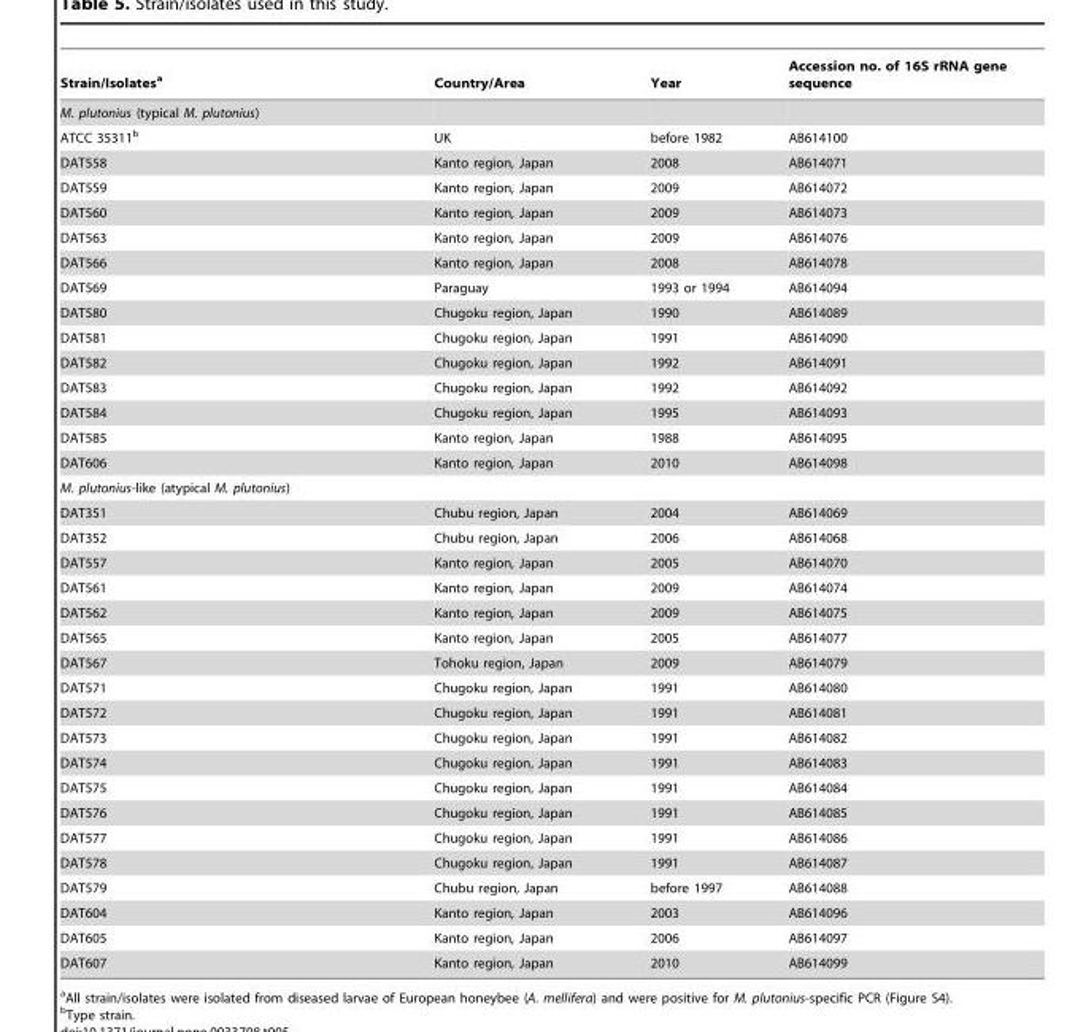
<table><thead><tr><td>Strain/Isolates<sup>a</sup></td><td>Country/Area</td><td>Year</td><td>Accession no. of 16S rRNA gene sequence</td></tr></thead><tbody><tr><td colspan="4">M. plutonius (typical M. plutonius)</td></tr><tr><td>ATCC 35311<sup>b</sup></td><td>UK</td><td>before 1982</td><td>AB614100</td></tr><tr><td>DAT558</td><td>Kanto region, Japan</td><td>2008</td><td>AB614071</td></tr><tr><td>DAT559</td><td>Kanto region, Japan</td><td>2009</td><td>AB614072</td></tr><tr><td>DAT560</td><td>Kanto region, Japan</td><td>2009</td><td>AB614073</td></tr><tr><td>DAT563</td><td>Kanto region, Japan</td><td>2009</td><td>AB614076</td></tr><tr><td>DAT566</td><td>Kanto region, Japan</td><td>2008</td><td>AB614078</td></tr><tr><td>DAT569</td><td>Paraguay</td><td>1993 or 1994</td><td>AB614094</td></tr><tr><td>DAT580</td><td>Chugoku region, Japan</td><td>1990</td><td>AB614089</td></tr><tr><td>DAT581</td><td>Chugoku region, Japan</td><td>1991</td><td>AB614090</td></tr><tr><td>DAT582</td><td>Chugoku region, Japan</td><td>1992</td><td>AB614091</td></tr><tr><td>DAT583</td><td>Chugoku region, Japan</td><td>1992</td><td>AB614092</td></tr><tr><td>DAT584</td><td>Chugoku region, Japan</td><td>1995</td><td>AB614093</td></tr><tr><td>DAT585</td><td>Kanto region, Japan</td><td>1988</td><td>AB614095</td></tr><tr><td>DAT606</td><td>Kanto region, Japan</td><td>2010</td><td>AB614098</td></tr><tr><td colspan="4">M. plutonius-like (atypical M. plutonius)</td></tr><tr><td>DAT351</td><td>Chubu region, Japan</td><td>2004</td><td>AB614069</td></tr><tr><td>DAT352</td><td>Chubu region, Japan</td><td>2006</td><td>AB614068</td></tr><tr><td>DAT557</td><td>Kanto region, Japan</td><td>2005</td><td>AB614070</td></tr><tr><td>DAT561</td><td>Kanto region, Japan</td><td>2009</td><td>AB614074</td></tr><tr><td>DAT562</td><td>Kanto region, Japan</td><td>2009</td><td>AB614075</td></tr><tr><td>DAT565</td><td>Kanto region, Japan</td><td>2005</td><td>AB614077</td></tr><tr><td>DAT567</td><td>Tohoku region, Japan</td><td>2009</td><td>AB614079</td></tr><tr><td>DAT571</td><td>Chugoku region, Japan</td><td>1991</td><td>AB614080</td></tr><tr><td>DAT572</td><td>Chugoku region, Japan</td><td>1991</td><td>AB614081</td></tr><tr><td>DAT573</td><td>Chugoku region, Japan</td><td>1991</td><td>AB614082</td></tr><tr><td>DAT574</td><td>Chugoku region, Japan</td><td>1991</td><td>AB614083</td></tr><tr><td>DAT575</td><td>Chugoku region, Japan</td><td>1991</td><td>AB614084</td></tr><tr><td>DAT576</td><td>Chugoku region, Japan</td><td>1991</td><td>AB614085</td></tr><tr><td>DAT577</td><td>Chugoku region, Japan</td><td>1991</td><td>AB614086</td></tr><tr><td>DAT578</td><td>Chugoku region, Japan</td><td>1991</td><td>AB614087</td></tr><tr><td>DAT579</td><td>Chubu region, Japan</td><td>before 1997</td><td>AB614088</td></tr><tr><td>DAT604</td><td>Kanto region, Japan</td><td>2003</td><td>AB614096</td></tr><tr><td>DAT605</td><td>Kanto region, Japan</td><td>2006</td><td>AB614097</td></tr><tr><td>DAT607</td><td>Kanto region, Japan</td><td>2010</td><td>AB614099</td></tr></tbody></table>